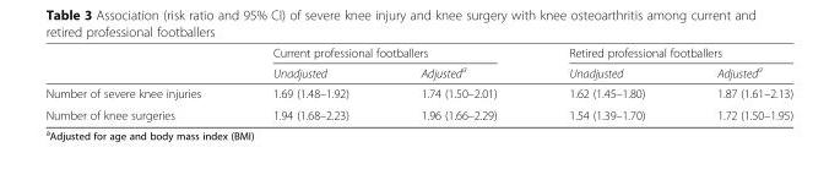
<table><thead><tr><td rowspan="2"></td><td colspan="2">Current professional footballers</td><td colspan="2">Retired professional footballers</td></tr><tr><td>Unadjusted</td><td>Adjusted<sup>a</sup></td><td>Unadjusted</td><td>Adjusted<sup>a</sup></td></tr></thead><tbody><tr><td>Number of severe knee injuries</td><td>1.69 (1.48–1.92)</td><td>1.74 (1.50–2.01)</td><td>1.62 (1.45–1.80)</td><td>1.87 (1.61–2.13)</td></tr><tr><td>Number of knee surgeries</td><td>1.94 (1.68–2.23)</td><td>1.96 (1.66–2.29)</td><td>1.54 (1.39–1.70)</td><td>1.72 (1.50–1.95)</td></tr></tbody></table>